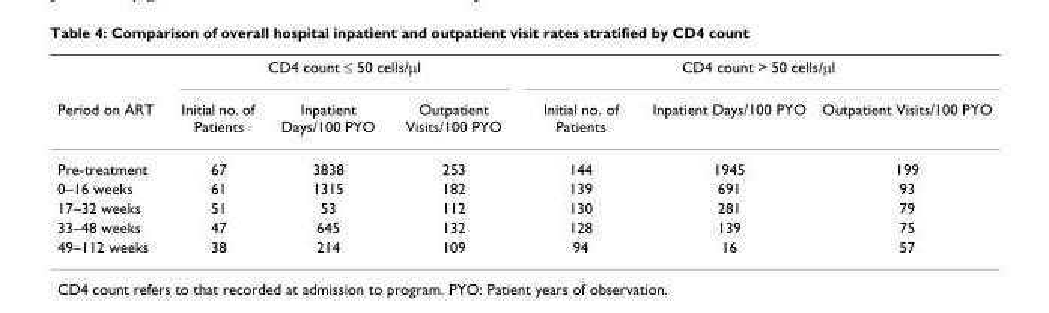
<table><thead><tr><td rowspan="2">Period on ART</td><td colspan="3">CD4 count ≤ 50 cells/µl</td><td colspan="3">CD4 count &gt; 50 cells/µl</td></tr><tr><td>Initial no. of Patients</td><td>Inpatient Days/100 PYO</td><td>Outpatient Visits/100 PYO</td><td>Initial no. of Patients</td><td>Inpatient Days/100 PYO</td><td>Outpatient Visits/100 PYO</td></tr></thead><tbody><tr><td>Pre-treatment</td><td>67</td><td>3838</td><td>253</td><td>144</td><td>1945</td><td>199</td></tr><tr><td>0–16 weeks</td><td>61</td><td>1315</td><td>182</td><td>139</td><td>691</td><td>93</td></tr><tr><td>17–32 weeks</td><td>51</td><td>53</td><td>112</td><td>130</td><td>281</td><td>79</td></tr><tr><td>33–48 weeks</td><td>47</td><td>645</td><td>132</td><td>128</td><td>139</td><td>75</td></tr><tr><td>49–112 weeks</td><td>38</td><td>214</td><td>109</td><td>94</td><td>16</td><td>57</td></tr></tbody></table>